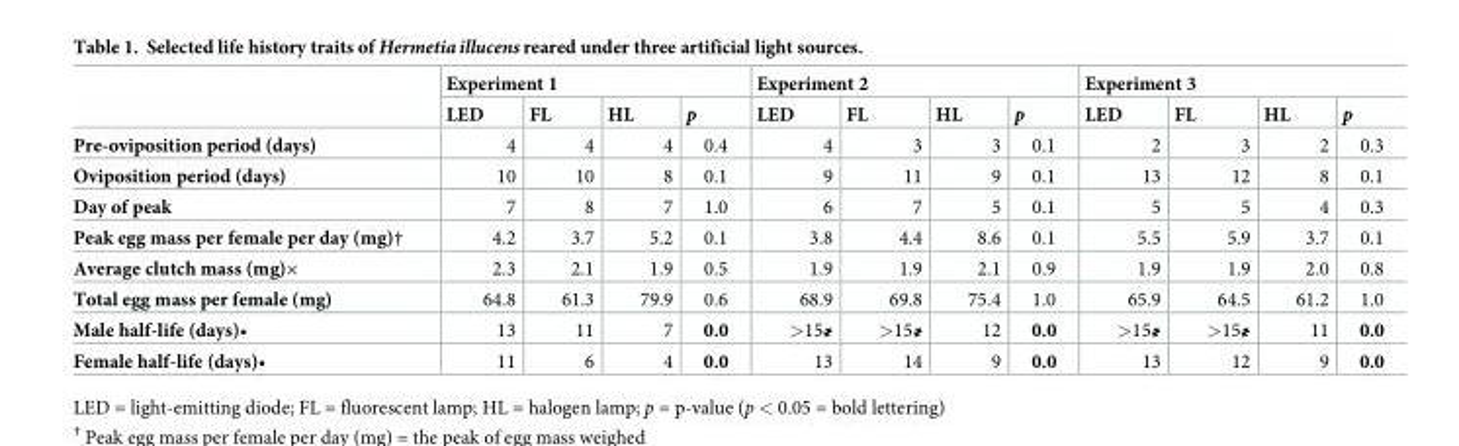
<table><thead><tr><td rowspan="2"></td><td colspan="4">Experiment 1</td><td colspan="4">Experiment 2</td><td colspan="4">Experiment 3</td></tr><tr><td>LED</td><td>FL</td><td>HL</td><td>p</td><td>LED</td><td>FL</td><td>HL</td><td>p</td><td>LED</td><td>FL</td><td>HL</td><td>p</td></tr></thead><tbody><tr><td>Pre-oviposition period (days)</td><td>4</td><td>4</td><td>4</td><td>0.4</td><td>4</td><td>3</td><td>3</td><td>0.1</td><td>2</td><td>3</td><td>2</td><td>0.3</td></tr><tr><td>Oviposition period (days)</td><td>10</td><td>10</td><td>8</td><td>0.1</td><td>9</td><td>11</td><td>9</td><td>0.1</td><td>13</td><td>12</td><td>8</td><td>0.1</td></tr><tr><td>Day of peak</td><td>7</td><td>8</td><td>7</td><td>1.0</td><td>6</td><td>7</td><td>5</td><td>0.1</td><td>5</td><td>5</td><td>4</td><td>0.3</td></tr><tr><td>Peak egg mass per female per day (mg)†</td><td>4.2</td><td>3.7</td><td>5.2</td><td>0.1</td><td>3.8</td><td>4.4</td><td>8.6</td><td>0.1</td><td>5.5</td><td>5.9</td><td>3.7</td><td>0.1</td></tr><tr><td>Average clutch mass (mg)×</td><td>2.3</td><td>2.1</td><td>1.9</td><td>0.5</td><td>1.9</td><td>1.9</td><td>2.1</td><td>0.9</td><td>1.9</td><td>1.9</td><td>2.0</td><td>0.8</td></tr><tr><td>Total egg mass per female (mg)</td><td>64.8</td><td>61.3</td><td>79.9</td><td>0.6</td><td>68.9</td><td>69.8</td><td>75.4</td><td>1.0</td><td>65.9</td><td>64.5</td><td>61.2</td><td>1.0</td></tr><tr><td>Male half-life (days)•</td><td>13</td><td>11</td><td>7</td><td>0.0</td><td>&gt;15҂</td><td>&gt;15҂</td><td>12</td><td>0.0</td><td>&gt;15҂</td><td>&gt;15҂</td><td>11</td><td>0.0</td></tr><tr><td>Female half-life (days)•</td><td>11</td><td>6</td><td>4</td><td>0.0</td><td>13</td><td>14</td><td>9</td><td>0.0</td><td>13</td><td>12</td><td>9</td><td>0.0</td></tr></tbody></table>